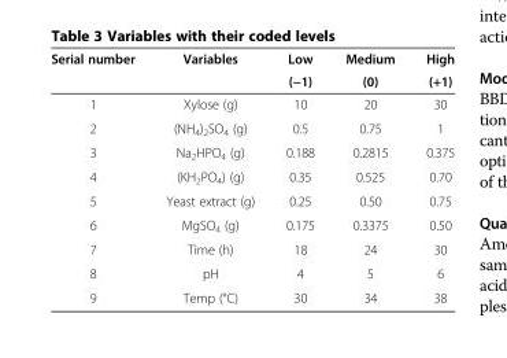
<table><thead><tr><td rowspan="2">Serial number</td><td rowspan="2">Variables</td><td rowspan="2">Low (−1)</td><td rowspan="2">Medium (0)</td><td rowspan="2">High (+1)</td></tr><tr></tr></thead><tbody><tr><td>1</td><td>Xylose (g)</td><td>10</td><td>20</td><td>30</td></tr><tr><td>2</td><td>(NH<sub>4</sub>)<sub>2</sub>SO<sub>4</sub> (g)</td><td>0.5</td><td>0.75</td><td>1</td></tr><tr><td>3</td><td>Na<sub>2</sub>HPO<sub>4</sub> (g)</td><td>0.188</td><td>0.2815</td><td>0.375</td></tr><tr><td>4</td><td>(KH<sub>2</sub>PO<sub>4</sub>) (g)</td><td>0.35</td><td>0.525</td><td>0.70</td></tr><tr><td>5</td><td>Yeast extract (g)</td><td>0.25</td><td>0.50</td><td>0.75</td></tr><tr><td>6</td><td>MgSO<sub>4</sub> (g)</td><td>0.175</td><td>0.3375</td><td>0.50</td></tr><tr><td>7</td><td>Time (h)</td><td>18</td><td>24</td><td>30</td></tr><tr><td>8</td><td>pH</td><td>4</td><td>5</td><td>6</td></tr><tr><td>9</td><td>Temp (°C)</td><td>30</td><td>34</td><td>38</td></tr></tbody></table>